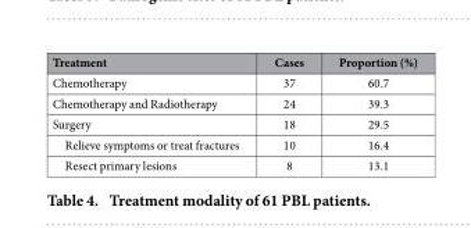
<table><thead><tr><td>Treatment</td><td>Cases</td><td>Proportion (%)</td></tr></thead><tbody><tr><td>Chemotherapy</td><td>37</td><td>60.7</td></tr><tr><td>Chemotherapy and Radiotherapy</td><td>24</td><td>39.3</td></tr><tr><td>Surgery</td><td>18</td><td>29.5</td></tr><tr><td>Relieve symptoms or treat fractures</td><td>10</td><td>16.4</td></tr><tr><td>Resect primary lesions</td><td>8</td><td>13.1</td></tr></tbody></table>